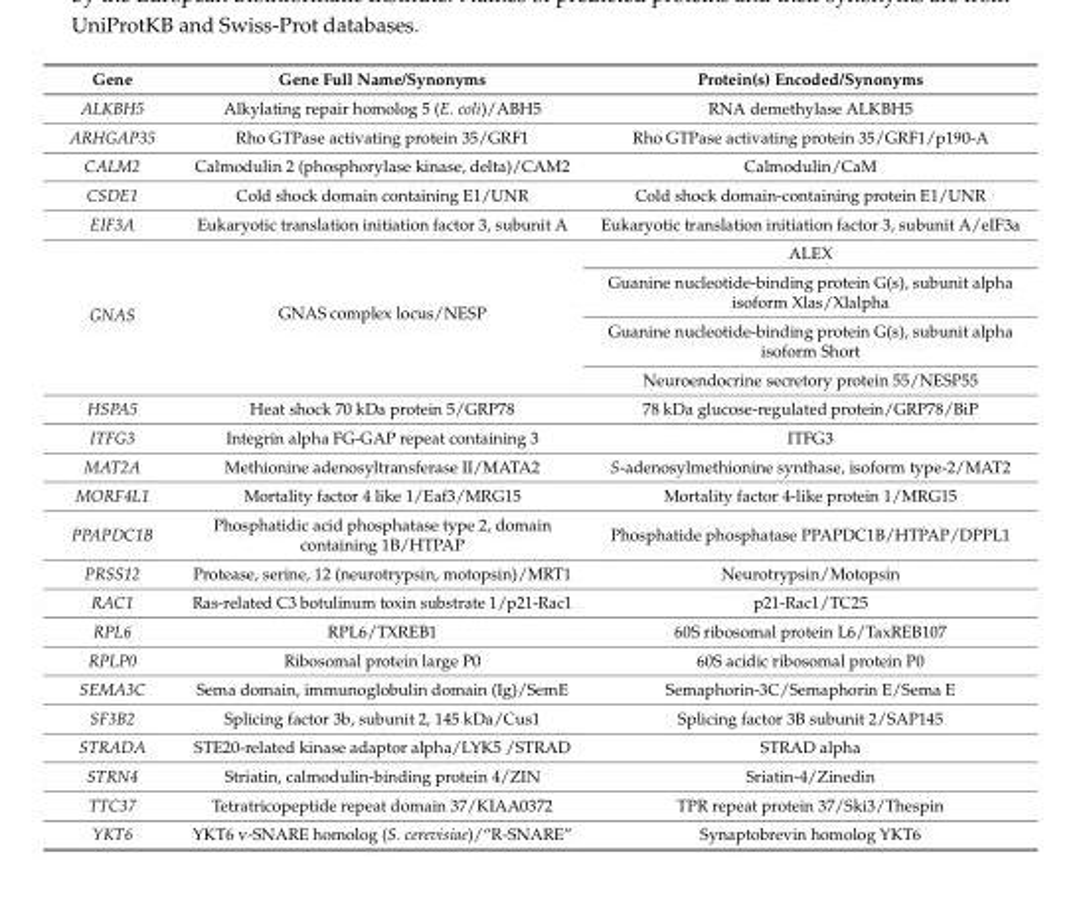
<table><thead><tr><td>Gene</td><td>Gene Full Name/Synonyms</td><td>Protein(s) Encoded/Synonyms</td></tr></thead><tbody><tr><td>ALKBH5</td><td>Alkylating repair homolog 5 (E. coli)/ABH5</td><td>RNA demethylase ALKBH5</td></tr><tr><td>ARHGAP35</td><td>Rho GTPase activating protein 35/GRF1</td><td>Rho GTPase activating protein 35/GRF1/p190-A</td></tr><tr><td>CALM2</td><td>Calmodulin 2 (phosphorylase kinase, delta)/CAM2</td><td>Calmodulin/CaM</td></tr><tr><td>CSDE1</td><td>Cold shock domain containing E1/UNR</td><td>Cold shock domain-containing protein E1/UNR</td></tr><tr><td>EIF3A</td><td>Eukaryotic translation initiation factor 3, subunit A</td><td>Eukaryotic translation initiation factor 3, subunit A/eIF3a</td></tr><tr><td rowspan="4">GNAS</td><td rowspan="4">GNAS complex locus/NESP</td><td>ALEX</td></tr><tr><td>Guanine nucleotide-binding protein G(s), subunit alpha isoform Xlas/Xlalpha</td></tr><tr><td>Guanine nucleotide-binding protein G(s), subunit alpha isoform Short</td></tr><tr><td>Neuroendocrine secretory protein 55/NESP55</td></tr><tr><td>HSPA5</td><td>Heat shock 70 kDa protein 5/GRP78</td><td>78 kDa glucose-regulated protein/GRP78/BiP</td></tr><tr><td>ITFG3</td><td>Integrin alpha FG-GAP repeat containing 3</td><td>ITFG3</td></tr><tr><td>MAT2A</td><td>Methionine adenosyltransferase II/MATA2</td><td>S-adenosylmethionine synthase, isoform type-2/MAT2</td></tr><tr><td>MORF4L1</td><td>Mortality factor 4 like 1/Eaf3/MRG15</td><td>Mortality factor 4-like protein 1/MRG15</td></tr><tr><td>PPAPDC1B</td><td>Phosphatidic acid phosphatase type 2, domain containing 1B/HTPAP</td><td>Phosphatide phosphatase PPAPDC1B/HTPAP/DPPL1</td></tr><tr><td>PRSS12</td><td>Protease, serine, 12 (neurotrypsin, motopsin)/MRT1</td><td>Neurotrypsin/Motopsin</td></tr><tr><td>RAC1</td><td>Ras-related C3 botulinum toxin substrate 1/p21-Rac1</td><td>p21-Rac1/TC25</td></tr><tr><td>RPL6</td><td>RPL6/TXREB1</td><td>60S ribosomal protein L6/TaxREB107</td></tr><tr><td>RPLP0</td><td>Ribosomal protein large P0</td><td>60S acidic ribosomal protein P0</td></tr><tr><td>SEMA3C</td><td>Sema domain, immunoglobulin domain (Ig)/SemE</td><td>Semaphorin-3C/Semaphorin E/Sema E</td></tr><tr><td>SF3B2</td><td>Splicing factor 3b, subunit 2, 145 kDa/Cus1</td><td>Splicing factor 3B subunit 2/SAP145</td></tr><tr><td>STRADA</td><td>STE20-related kinase adaptor alpha/LYK5 /STRAD</td><td>STRAD alpha</td></tr><tr><td>STRN4</td><td>Striatin, calmodulin-binding protein 4/ZIN</td><td>Sriatin-4/Zinedin</td></tr><tr><td>TTC37</td><td>Tetratricopeptide repeat domain 37/KIAA0372</td><td>TPR repeat protein 37/Ski3/Thespin</td></tr><tr><td>YKT6</td><td>YKT6 v-SNARE homolog (S. cerevisiae)/“R-SNARE”</td><td>Synaptobrevin homolog YKT6</td></tr></tbody></table>